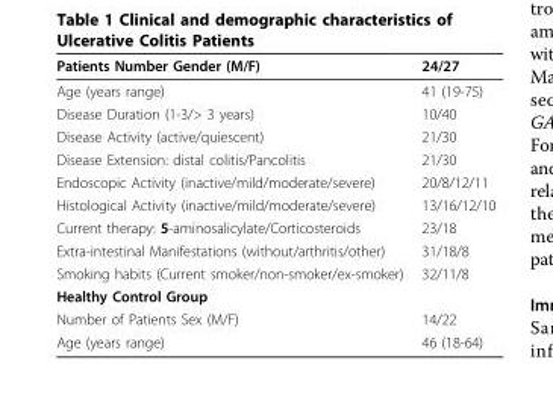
<table><thead><tr><td>Patients Number Gender (M/F)</td><td>24/27</td></tr></thead><tbody><tr><td>Age (years range)</td><td>41 (19-75)</td></tr><tr><td>Disease Duration (1-3/&gt; 3 years)</td><td>10/40</td></tr><tr><td>Disease Activity (active/quiescent)</td><td>21/30</td></tr><tr><td>Disease Extension: distal colitis/Pancolitis</td><td>21/30</td></tr><tr><td>Endoscopic Activity (inactive/mild/moderate/severe)</td><td>20/8/12/11</td></tr><tr><td>Histological Activity (inactive/mild/moderate/severe)</td><td>13/16/12/10</td></tr><tr><td>Current therapy: 5-aminosalicylate/Corticosteroids</td><td>23/18</td></tr><tr><td>Extra-intestinal Manifestations (without/arthritis/other)</td><td>31/18/8</td></tr><tr><td>Smoking habits (Current smoker/non-smoker/ex-smoker)</td><td>32/11/8</td></tr><tr><td colspan="2">Healthy Control Group</td></tr><tr><td>Number of Patients Sex (M/F)</td><td>14/22</td></tr><tr><td>Age (years range)</td><td>46 (18-64)</td></tr></tbody></table>